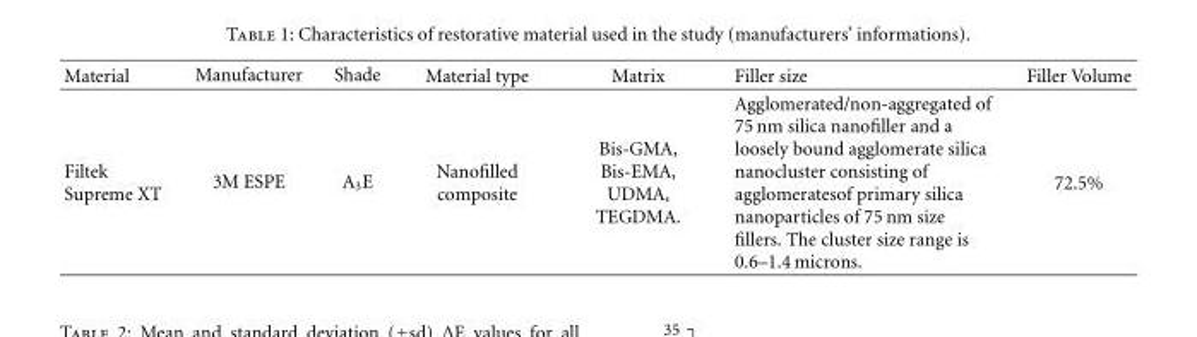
<table><thead><tr><td>Material</td><td>Manufacturer</td><td>Shade</td><td>Material type</td><td>Matrix</td><td>Filler size</td><td>Filler Volume</td></tr></thead><tbody><tr><td>Filtek Supreme XT</td><td>3M ESPE</td><td>A<sub>3</sub>E</td><td>Nanofilled composite</td><td>Bis-GMA, Bis-EMA, UDMA, TEGDMA.</td><td>Agglomerated/non-aggregated of 75 nm silica nanofiller and a loosely bound agglomerate silica nanocluster consisting of agglomeratesof primary silica nanoparticles of 75 nm size fillers. The cluster size range is 0.6–1.4 microns.</td><td>72.5%</td></tr></tbody></table>